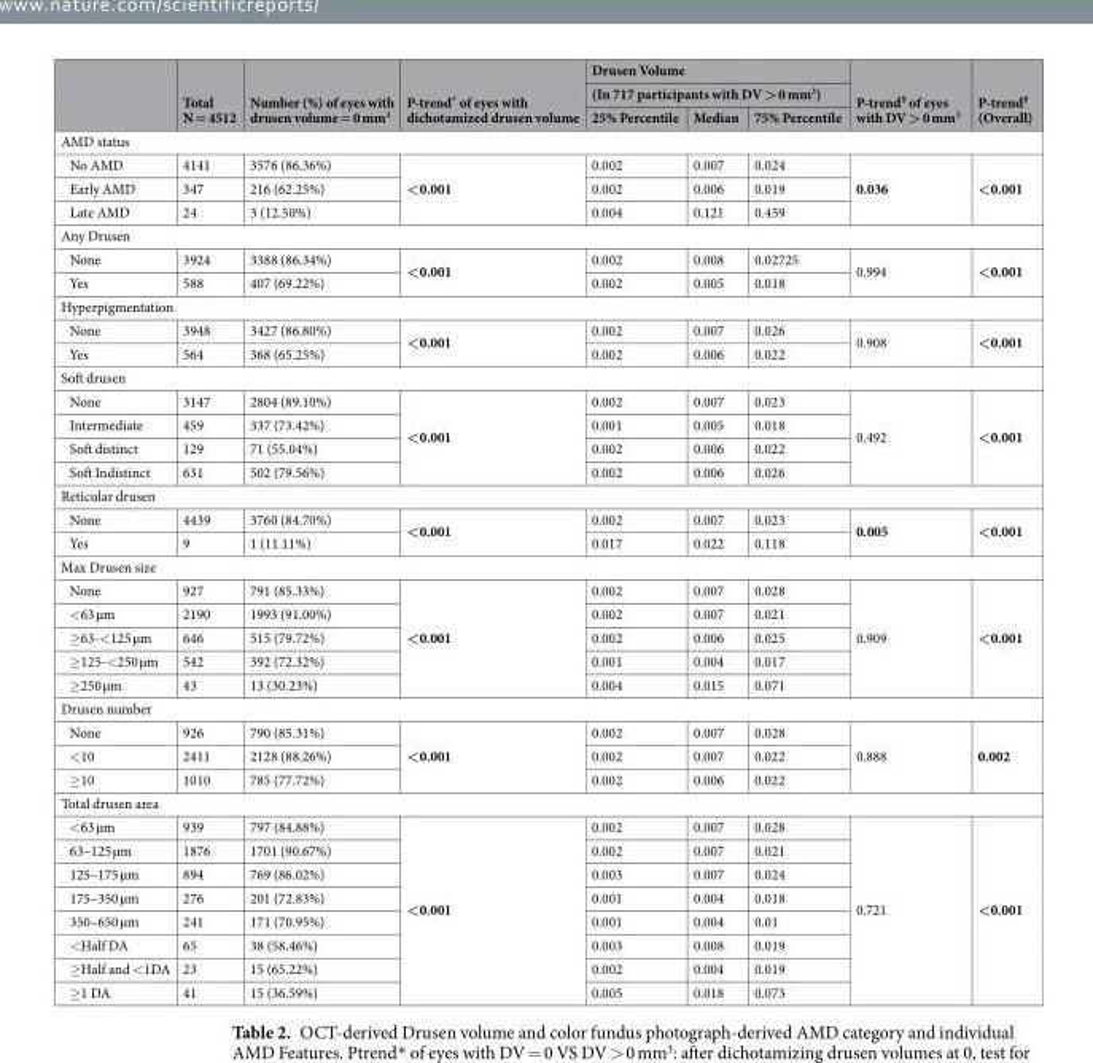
<table><thead><tr><td rowspan="3"></td><td rowspan="3">Total N = 4512</td><td rowspan="3">Number (%) of eyes with drusen volume = 0 mm<sup>3</sup></td><td rowspan="3">P-trend* of eyes with dichotamized drusen volume</td><td rowspan="2" colspan="3">Drusen Volume (In 717 participants with DV &gt; 0 mm<sup>3</sup>)</td><td rowspan="3">P-trend<sup>Ϯ</sup> of eyes with DV &gt; 0 mm<sup>3</sup></td><td rowspan="3">P-trend<sup>Ϯ</sup> (Overall)</td></tr><tr></tr><tr><td>25% Percentile</td><td>Median</td><td>75% Percentile</td></tr></thead><tbody><tr><td colspan="9">AMD status</td></tr><tr><td>No AMD</td><td>4141</td><td>3576 (86.36%)</td><td rowspan="3">&lt;0.001</td><td>0.002</td><td>0.007</td><td>0.024</td><td rowspan="3">0.036</td><td rowspan="3">&lt;0.001</td></tr><tr><td>Early AMD</td><td>347</td><td>216 (62.25%)</td><td>0.002</td><td>0.006</td><td>0.019</td></tr><tr><td>Late AMD</td><td>24</td><td>3 (12.50%)</td><td>0.004</td><td>0.121</td><td>0.459</td></tr><tr><td colspan="9">Any Drusen</td></tr><tr><td>None</td><td>3924</td><td>3388 (86.34%)</td><td rowspan="2">&lt;0.001</td><td>0.002</td><td>0.008</td><td>0.02725</td><td rowspan="2">0.994</td><td rowspan="2">&lt;0.001</td></tr><tr><td>Yes</td><td>588</td><td>407 (69.22%)</td><td>0.002</td><td>0.005</td><td>0.018</td></tr><tr><td colspan="9">Hyperpigmentation</td></tr><tr><td>None</td><td>3948</td><td>3427 (86.80%)</td><td rowspan="2">&lt;0.001</td><td>0.002</td><td>0.007</td><td>0.026</td><td rowspan="2">0.908</td><td rowspan="2">&lt;0.001</td></tr><tr><td>Yes</td><td>564</td><td>368 (65.25%)</td><td>0.002</td><td>0.006</td><td>0.022</td></tr><tr><td colspan="9">Soft drusen</td></tr><tr><td>None</td><td>3147</td><td>2804 (89.10%)</td><td rowspan="4">&lt;0.001</td><td>0.002</td><td>0.007</td><td>0.023</td><td rowspan="4">0.492</td><td rowspan="4">&lt;0.001</td></tr><tr><td>Intermediate</td><td>459</td><td>337 (73.42%)</td><td>0.001</td><td>0.005</td><td>0.018</td></tr><tr><td>Soft distinct</td><td>129</td><td>71 (55.04%)</td><td>0.002</td><td>0.006</td><td>0.022</td></tr><tr><td>Soft Indistinct</td><td>631</td><td>502 (79.56%)</td><td>0.002</td><td>0.006</td><td>0.026</td></tr><tr><td colspan="9">Reticular drusen</td></tr><tr><td>None</td><td>4439</td><td>3760 (84.70%)</td><td rowspan="2">&lt;0.001</td><td>0.002</td><td>0.007</td><td>0.023</td><td rowspan="2">0.005</td><td rowspan="2">&lt;0.001</td></tr><tr><td>Yes</td><td>9</td><td>1 (11.11%)</td><td>0.017</td><td>0.022</td><td>0.118</td></tr><tr><td colspan="9">Max Drusen size</td></tr><tr><td>None</td><td>927</td><td>791 (85.33%)</td><td rowspan="5">&lt;0.001</td><td>0.002</td><td>0.007</td><td>0.028</td><td rowspan="5">0.909</td><td rowspan="5">&lt;0.001</td></tr><tr><td>&lt;63 µm</td><td>2190</td><td>1993 (91.00%)</td><td>0.002</td><td>0.007</td><td>0.021</td></tr><tr><td>≥63-&lt;125 µm</td><td>646</td><td>515 (79.72%)</td><td>0.002</td><td>0.006</td><td>0.025</td></tr><tr><td>≥125-&lt;250 µm</td><td>542</td><td>392 (72.32%)</td><td>0.001</td><td>0.004</td><td>0.017</td></tr><tr><td>≥250 µm</td><td>43</td><td>13 (30.23%)</td><td>0.004</td><td>0.015</td><td>0.071</td></tr><tr><td colspan="9">Drusen number</td></tr><tr><td>None</td><td>926</td><td>790 (85.31%)</td><td rowspan="3">&lt;0.001</td><td>0.002</td><td>0.007</td><td>0.028</td><td rowspan="3">0.888</td><td rowspan="3">0.002</td></tr><tr><td>&lt;10</td><td>2411</td><td>2128 (88.26%)</td><td>0.002</td><td>0.007</td><td>0.022</td></tr><tr><td>≥10</td><td>1010</td><td>785 (77.72%)</td><td>0.002</td><td>0.006</td><td>0.022</td></tr><tr><td colspan="9">Total drusen area</td></tr><tr><td>&lt;63 µm</td><td>939</td><td>797 (84.88%)</td><td rowspan="8">&lt;0.001</td><td>0.002</td><td>0.007</td><td>0.028</td><td rowspan="8">0.721</td><td rowspan="8">&lt;0.001</td></tr><tr><td>63–125 µm</td><td>1876</td><td>1701 (90.67%)</td><td>0.002</td><td>0.007</td><td>0.021</td></tr><tr><td>125–175 µm</td><td>894</td><td>769 (86.02%)</td><td>0.003</td><td>0.007</td><td>0.024</td></tr><tr><td>175–350 µm</td><td>276</td><td>201 (72.83%)</td><td>0.001</td><td>0.004</td><td>0.018</td></tr><tr><td>350–650 µm</td><td>241</td><td>171 (70.95%)</td><td>0.001</td><td>0.004</td><td>0.01</td></tr><tr><td>&lt;Half DA</td><td>65</td><td>38 (58.46%)</td><td>0.003</td><td>0.008</td><td>0.019</td></tr><tr><td>≥Half and &lt;1DA</td><td>23</td><td>15 (65.22%)</td><td>0.002</td><td>0.004</td><td>0.019</td></tr><tr><td>≥1 DA</td><td>41</td><td>15 (36.59%)</td><td>0.005</td><td>0.018</td><td>0.073</td></tr></tbody></table>